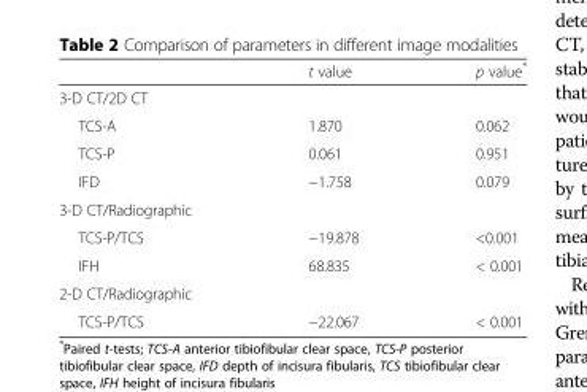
<table><thead><tr><td></td><td>t value</td><td>p value*</td></tr></thead><tbody><tr><td colspan="3">3-D CT/2D CT</td></tr><tr><td>TCS-A</td><td>1.870</td><td>0.062</td></tr><tr><td>TCS-P</td><td>0.061</td><td>0.951</td></tr><tr><td>IFD</td><td>−1.758</td><td>0.079</td></tr><tr><td colspan="3">3-D CT/Radiographic</td></tr><tr><td>TCS-P/TCS</td><td>−19.878</td><td>&lt;0.001</td></tr><tr><td>IFH</td><td>68.835</td><td>&lt; 0.001</td></tr><tr><td colspan="3">2-D CT/Radiographic</td></tr><tr><td>TCS-P/TCS</td><td>−22.067</td><td>&lt; 0.001</td></tr></tbody></table>